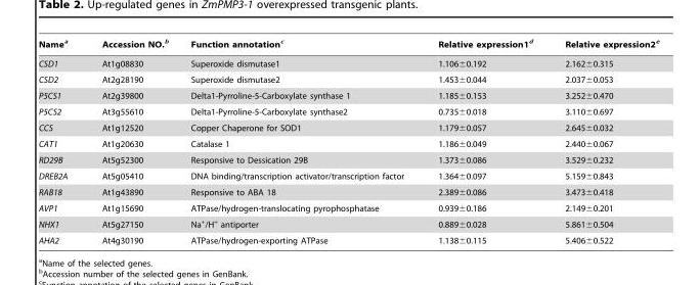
<table><thead><tr><td>Name<sup>a</sup></td><td>Accession NO.<sup>b</sup></td><td>Function annotation<sup>c</sup></td><td>Relative expression1<sup>d</sup></td><td>Relative expression2<sup>e</sup></td></tr></thead><tbody><tr><td>CSD1</td><td>At1g08830</td><td>Superoxide dismutase1</td><td>1.106±0.192</td><td>2.162±0.315</td></tr><tr><td>CSD2</td><td>At2g28190</td><td>Superoxide dismutase2</td><td>1.453±0.044</td><td>2.037±0.053</td></tr><tr><td>P5CS1</td><td>At2g39800</td><td>Delta1-Pyrroline-5-Carboxylate synthase 1</td><td>1.185±0.153</td><td>3.252±0.470</td></tr><tr><td>P5CS2</td><td>At3g55610</td><td>Delta1-Pyrroline-5-Carboxylate synthase2</td><td>0.735±0.018</td><td>3.110±0.697</td></tr><tr><td>CCS</td><td>At1g12520</td><td>Copper Chaperone for SOD1</td><td>1.179±0.057</td><td>2.645±0.032</td></tr><tr><td>CAT1</td><td>At1g20630</td><td>Catalase 1</td><td>1.186±0.049</td><td>2.440±0.067</td></tr><tr><td>RD29B</td><td>At5g52300</td><td>Responsive to Dessication 29B</td><td>1.373±0.086</td><td>3.529±0.232</td></tr><tr><td>DREB2A</td><td>At5g05410</td><td>DNA binding/transcription activator/transcription factor</td><td>1.364±0.097</td><td>5.159±0.843</td></tr><tr><td>RAB18</td><td>At1g43890</td><td>Responsive to ABA 18</td><td>2.389±0.086</td><td>3.473±0.418</td></tr><tr><td>AVP1</td><td>At1g15690</td><td>ATPase/hydrogen-translocating pyrophosphatase</td><td>0.939±0.186</td><td>2.149±0.201</td></tr><tr><td>NHX1</td><td>At5g27150</td><td>Na<sup>+</sup>/H<sup>+</sup> antiporter</td><td>0.889±0.028</td><td>5.861±0.504</td></tr><tr><td>AHA2</td><td>At4g30190</td><td>ATPase/hydrogen-exporting ATPase</td><td>1.138±0.115</td><td>5.406±0.522</td></tr></tbody></table>